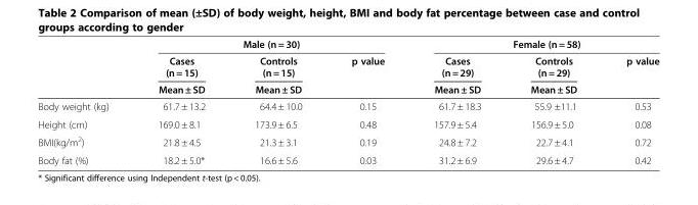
<table><thead><tr><td rowspan="3"></td><td colspan="3">Male (n = 30)</td><td colspan="3">Female (n = 58)</td></tr><tr><td rowspan="2">Cases (n = 15) Mean ± SD</td><td rowspan="2">Controls (n = 15) Mean ± SD</td><td rowspan="2">p value</td><td rowspan="2">Cases (n = 29) Mean ± SD</td><td rowspan="2">Controls (n = 29) Mean ± SD</td><td rowspan="2">p value</td></tr><tr></tr></thead><tbody><tr><td>Body weight (kg)</td><td>61.7 ± 13.2</td><td>64.4 ± 10.0</td><td>0.15</td><td>61.7 ± 18.3</td><td>55.9 ±11.1</td><td>0.53</td></tr><tr><td>Height (cm)</td><td>169.0 ± 8.1</td><td>173.9 ± 6.5</td><td>0.48</td><td>157.9 ± 5.4</td><td>156.9 ± 5.0</td><td>0.08</td></tr><tr><td>BMI(kg/m<sup>2</sup>)</td><td>21.8 ± 4.5</td><td>21.3 ± 3.1</td><td>0.19</td><td>24.8 ± 7.2</td><td>22.7 ± 4.1</td><td>0.72</td></tr><tr><td>Body fat (%)</td><td>18.2 ± 5.0*</td><td>16.6 ± 5.6</td><td>0.03</td><td>31.2 ± 6.9</td><td>29.6 ± 4.7</td><td>0.42</td></tr></tbody></table>